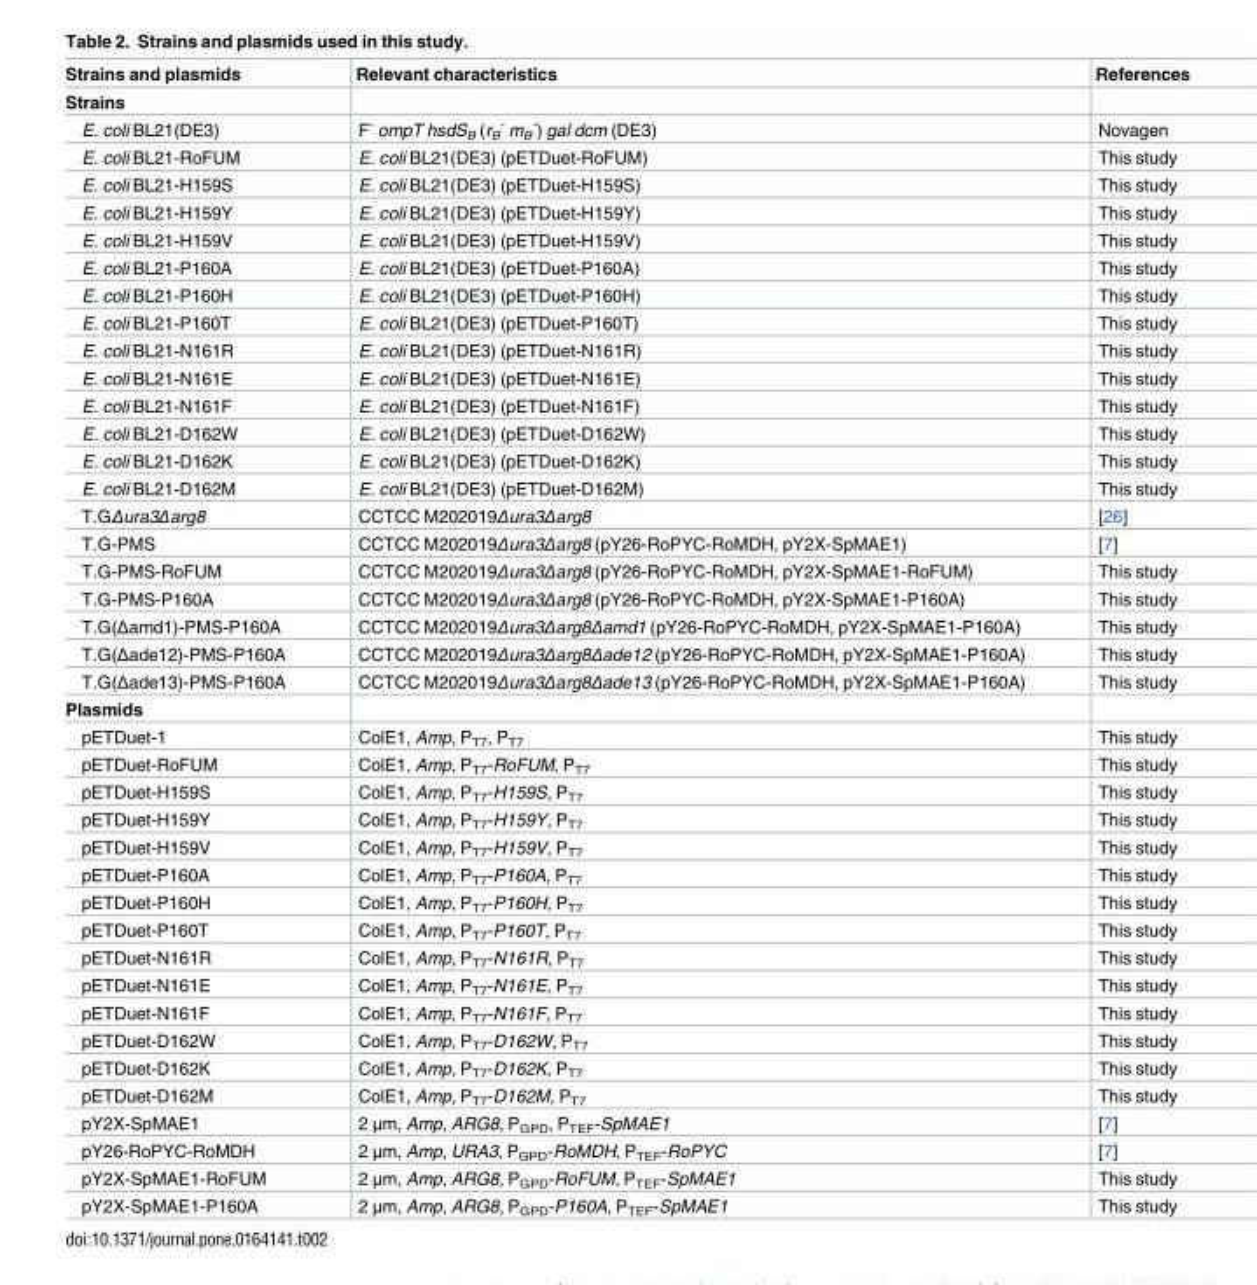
<table><thead><tr><td>Strains and plasmids</td><td>Relevant characteristics</td><td>References</td></tr></thead><tbody><tr><td colspan="3">Strains</td></tr><tr><td>E. coli BL21(DE3)</td><td>F<sup>-</sup> ompT hsdS<sub>B</sub> (r<sub>B</sub> <sup>-</sup> m<sub>B</sub> <sup>-</sup>) gal dcm (DE3)</td><td>Novagen</td></tr><tr><td>E. coli BL21-RoFUM</td><td>E. coli BL21(DE3) (pETDuet-RoFUM)</td><td>This study</td></tr><tr><td>E. coli BL21-H159S</td><td>E. coli BL21(DE3) (pETDuet-H159S)</td><td>This study</td></tr><tr><td>E. coli BL21-H159Y</td><td>E. coli BL21(DE3) (pETDuet-H159Y)</td><td>This study</td></tr><tr><td>E. coli BL21-H159V</td><td>E. coli BL21(DE3) (pETDuet-H159V)</td><td>This study</td></tr><tr><td>E. coli BL21-P160A</td><td>E. coli BL21(DE3) (pETDuet-P160A)</td><td>This study</td></tr><tr><td>E. coli BL21-P160H</td><td>E. coli BL21(DE3) (pETDuet-P160H)</td><td>This study</td></tr><tr><td>E. coli BL21-P160T</td><td>E. coli BL21(DE3) (pETDuet-P160T)</td><td>This study</td></tr><tr><td>E. coli BL21-N161R</td><td>E. coli BL21(DE3) (pETDuet-N161R)</td><td>This study</td></tr><tr><td>E. coli BL21-N161E</td><td>E. coli BL21(DE3) (pETDuet-N161E)</td><td>This study</td></tr><tr><td>E. coli BL21-N161F</td><td>E. coli BL21(DE3) (pETDuet-N161F)</td><td>This study</td></tr><tr><td>E. coli BL21-D162W</td><td>E. coli BL21(DE3) (pETDuet-D162W)</td><td>This study</td></tr><tr><td>E. coli BL21-D162K</td><td>E. coli BL21(DE3) (pETDuet-D162K)</td><td>This study</td></tr><tr><td>E. coli BL21-D162M</td><td>E. coli BL21(DE3) (pETDuet-D162M)</td><td>This study</td></tr><tr><td>T.GΔura3Δarg8</td><td>CCTCC M202019Δura3Δarg8</td><td>[26]</td></tr><tr><td>T.G-PMS</td><td>CCTCC M202019Δura3Δarg8 (pY26-RoPYC-RoMDH, pY2X-SpMAE1)</td><td>[7]</td></tr><tr><td>T.G-PMS-RoFUM</td><td>CCTCC M202019Δura3Δarg8 (pY26-RoPYC-RoMDH, pY2X-SpMAE1-RoFUM)</td><td>This study</td></tr><tr><td>T.G-PMS-P160A</td><td>CCTCC M202019Δura3Δarg8 (pY26-RoPYC-RoMDH, pY2X-SpMAE1-P160A)</td><td>This study</td></tr><tr><td>T.G(Δamd1)-PMS-P160A</td><td>CCTCC M202019Δura3Δarg8Δamd1 (pY26-RoPYC-RoMDH, pY2X-SpMAE1-P160A)</td><td>This study</td></tr><tr><td>T.G(Δade12)-PMS-P160A</td><td>CCTCC M202019Δura3Δarg8Δade12 (pY26-RoPYC-RoMDH, pY2X-SpMAE1-P160A)</td><td>This study</td></tr><tr><td>T.G(Δade13)-PMS-P160A</td><td>CCTCC M202019Δura3Δarg8Δade13 (pY26-RoPYC-RoMDH, pY2X-SpMAE1-P160A)</td><td>This study</td></tr><tr><td colspan="3">Plasmids</td></tr><tr><td>pETDuet-1</td><td>ColE1, Amp, P<sub>T7</sub>, P<sub>T7</sub></td><td>This study</td></tr><tr><td>pETDuet-RoFUM</td><td>ColE1, Amp, P<sub>T7</sub>-RoFUM, P<sub>T7</sub></td><td>This study</td></tr><tr><td>pETDuet-H159S</td><td>ColE1, Amp, P<sub>T7</sub>-H159S, P<sub>T7</sub></td><td>This study</td></tr><tr><td>pETDuet-H159Y</td><td>ColE1, Amp, P<sub>T7</sub>-H159Y, P<sub>T7</sub></td><td>This study</td></tr><tr><td>pETDuet-H159V</td><td>ColE1, Amp, P<sub>T7</sub>-H159V, P<sub>T7</sub></td><td>This study</td></tr><tr><td>pETDuet-P160A</td><td>ColE1, Amp, P<sub>T7</sub>-P160A, P<sub>T7</sub></td><td>This study</td></tr><tr><td>pETDuet-P160H</td><td>ColE1, Amp, P<sub>T7</sub>-P160H, P<sub>T7</sub></td><td>This study</td></tr><tr><td>pETDuet-P160T</td><td>ColE1, Amp, P<sub>T7</sub>-P160T, P<sub>T7</sub></td><td>This study</td></tr><tr><td>pETDuet-N161R</td><td>ColE1, Amp, P<sub>T7</sub>-N161R, P<sub>T7</sub></td><td>This study</td></tr><tr><td>pETDuet-N161E</td><td>ColE1, Amp, P<sub>T7</sub>-N161E, P<sub>T7</sub></td><td>This study</td></tr><tr><td>pETDuet-N161F</td><td>ColE1, Amp, P<sub>T7</sub>-N161F, P<sub>T7</sub></td><td>This study</td></tr><tr><td>pETDuet-D162W</td><td>ColE1, Amp, P<sub>T7</sub>-D162W, P<sub>T7</sub></td><td>This study</td></tr><tr><td>pETDuet-D162K</td><td>ColE1, Amp, P<sub>T7</sub>-D162K, P<sub>T7</sub></td><td>This study</td></tr><tr><td>pETDuet-D162M</td><td>ColE1, Amp, P<sub>T7</sub>-D162M, P<sub>T7</sub></td><td>This study</td></tr><tr><td>pY2X-SpMAE1</td><td>2 μm, Amp, ARG8, P<sub>GPD</sub>, P<sub>TEF</sub>-SpMAE1</td><td>[7]</td></tr><tr><td>pY26-RoPYC-RoMDH</td><td>2 μm, Amp, URA3, P<sub>GPD</sub>-RoMDH, P<sub>TEF</sub>-RoPYC</td><td>[7]</td></tr><tr><td>pY2X-SpMAE1-RoFUM</td><td>2 μm, Amp, ARG8, P<sub>GPD</sub>-RoFUM, P<sub>TEF</sub>-SpMAE1</td><td>This study</td></tr><tr><td>pY2X-SpMAE1-P160A</td><td>2 μm, Amp, ARG8, P<sub>GPD</sub>-P160A, P<sub>TEF</sub>-SpMAE1</td><td>This study</td></tr></tbody></table>